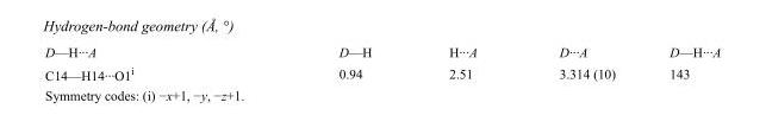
<table><tbody><tr><td>D—H···A</td><td>D—H</td><td>H···A</td><td>D···A</td><td>D—H···A</td></tr><tr><td>C14—H14···O1<sup>i</sup></td><td>0.94</td><td>2.51</td><td>3.314 (10)</td><td>143</td></tr></tbody></table>